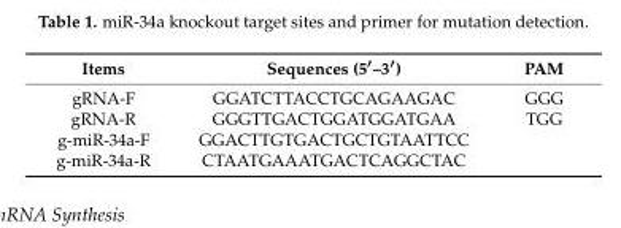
<table><thead><tr><td>Items</td><td>Sequences (5′–3′)</td><td>PAM</td></tr></thead><tbody><tr><td>gRNA-F</td><td>GGATCTTACCTGCAGAAGAC</td><td>GGG</td></tr><tr><td>gRNA-R</td><td>GGGTTGACTGGATGGATGAA</td><td>TGG</td></tr><tr><td>g-miR-34a-F</td><td>GGACTTGTGACTGCTGTAATTCC</td><td></td></tr><tr><td>g-miR-34a-R</td><td>CTAATGAAATGACTCAGGCTAC</td><td></td></tr></tbody></table>